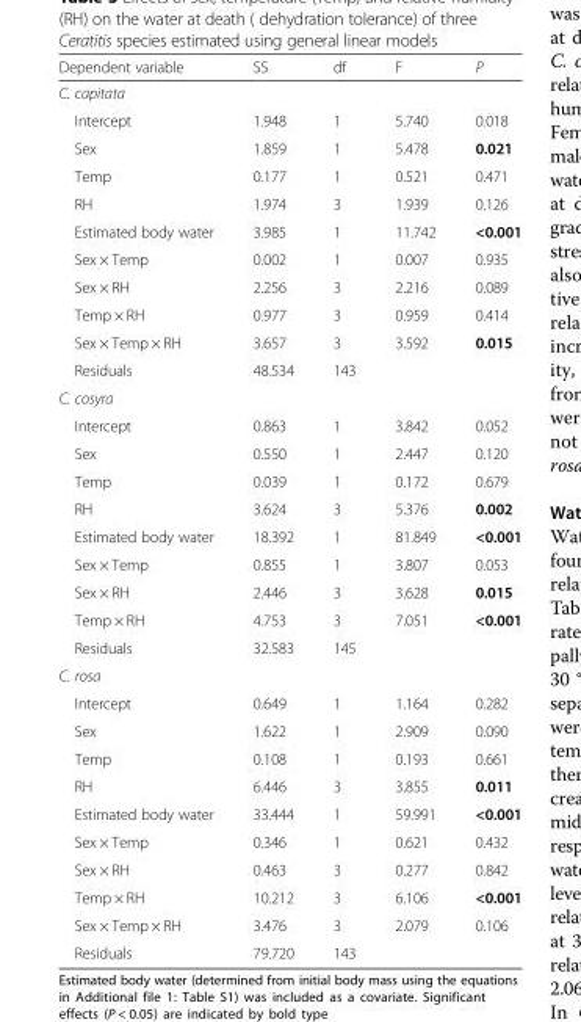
<table><thead><tr><td>Dependent variable</td><td>SS</td><td>df</td><td>F</td><td>P</td></tr></thead><tbody><tr><td colspan="5">C. capitata</td></tr><tr><td>Intercept</td><td>1.948</td><td>1</td><td>5.740</td><td>0.018</td></tr><tr><td>Sex</td><td>1.859</td><td>1</td><td>5.478</td><td>0.021</td></tr><tr><td>Temp</td><td>0.177</td><td>1</td><td>0.521</td><td>0.471</td></tr><tr><td>RH</td><td>1.974</td><td>3</td><td>1.939</td><td>0.126</td></tr><tr><td>Estimated body water</td><td>3.985</td><td>1</td><td>11.742</td><td>&lt;0.001</td></tr><tr><td>Sex × Temp</td><td>0.002</td><td>1</td><td>0.007</td><td>0.935</td></tr><tr><td>Sex × RH</td><td>2.256</td><td>3</td><td>2.216</td><td>0.089</td></tr><tr><td>Temp × RH</td><td>0.977</td><td>3</td><td>0.959</td><td>0.414</td></tr><tr><td>Sex × Temp × RH</td><td>3.657</td><td>3</td><td>3.592</td><td>0.015</td></tr><tr><td>Residuals</td><td>48.534</td><td>143</td><td></td><td></td></tr><tr><td colspan="5">C. cosyra</td></tr><tr><td>Intercept</td><td>0.863</td><td>1</td><td>3.842</td><td>0.052</td></tr><tr><td>Sex</td><td>0.550</td><td>1</td><td>2.447</td><td>0.120</td></tr><tr><td>Temp</td><td>0.039</td><td>1</td><td>0.172</td><td>0.679</td></tr><tr><td>RH</td><td>3.624</td><td>3</td><td>5.376</td><td>0.002</td></tr><tr><td>Estimated body water</td><td>18.392</td><td>1</td><td>81.849</td><td>&lt;0.001</td></tr><tr><td>Sex × Temp</td><td>0.855</td><td>1</td><td>3.807</td><td>0.053</td></tr><tr><td>Sex × RH</td><td>2.446</td><td>3</td><td>3.628</td><td>0.015</td></tr><tr><td>Temp × RH</td><td>4.753</td><td>3</td><td>7.051</td><td>&lt;0.001</td></tr><tr><td>Residuals</td><td>32.583</td><td>145</td><td></td><td></td></tr><tr><td colspan="5">C. rosa</td></tr><tr><td>Intercept</td><td>0.649</td><td>1</td><td>1.164</td><td>0.282</td></tr><tr><td>Sex</td><td>1.622</td><td>1</td><td>2.909</td><td>0.090</td></tr><tr><td>Temp</td><td>0.108</td><td>1</td><td>0.193</td><td>0.661</td></tr><tr><td>RH</td><td>6.446</td><td>3</td><td>3.855</td><td>0.011</td></tr><tr><td>Estimated body water</td><td>33.444</td><td>1</td><td>59.991</td><td>&lt;0.001</td></tr><tr><td>Sex × Temp</td><td>0.346</td><td>1</td><td>0.621</td><td>0.432</td></tr><tr><td>Sex × RH</td><td>0.463</td><td>3</td><td>0.277</td><td>0.842</td></tr><tr><td>Temp × RH</td><td>10.212</td><td>3</td><td>6.106</td><td>&lt;0.001</td></tr><tr><td>Sex × Temp × RH</td><td>3.476</td><td>3</td><td>2.079</td><td>0.106</td></tr><tr><td>Residuals</td><td>79.720</td><td>143</td><td></td><td></td></tr></tbody></table>